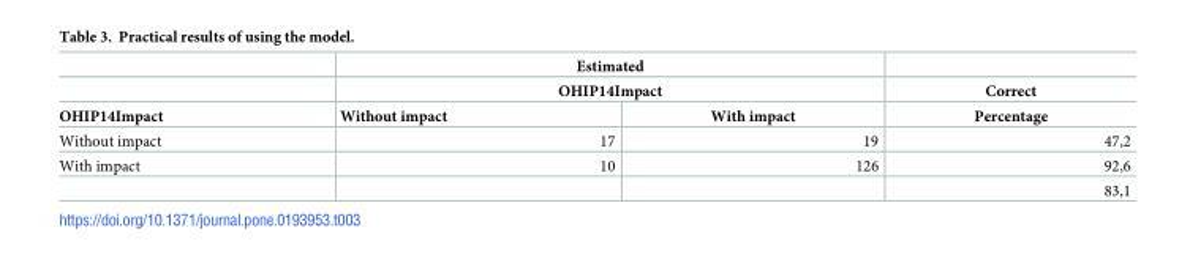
<table><thead><tr><td rowspan="3">OHIP14Impact</td><td rowspan="2" colspan="2">Estimated OHIP14Impact</td><td rowspan="3">Correct Percentage</td></tr><tr></tr><tr><td>Without impact</td><td>With impact</td></tr></thead><tbody><tr><td>Without impact</td><td>17</td><td>19</td><td>47,2</td></tr><tr><td rowspan="2">With impact</td><td>10</td><td>126</td><td>92,6</td></tr><tr><td></td><td></td><td>83,1</td></tr></tbody></table>